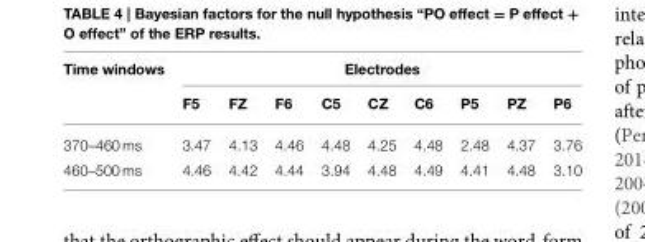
<table><thead><tr><td rowspan="2">Time windows</td><td colspan="9">Electrodes</td></tr><tr><td>F5</td><td>FZ</td><td>F6</td><td>C5</td><td>CZ</td><td>C6</td><td>P5</td><td>PZ</td><td>P6</td></tr></thead><tbody><tr><td>370–460 ms</td><td>3.47</td><td>4.13</td><td>4.46</td><td>4.48</td><td>4.25</td><td>4.48</td><td>2.48</td><td>4.37</td><td>3.76</td></tr><tr><td>460–500 ms</td><td>4.46</td><td>4.42</td><td>4.44</td><td>3.94</td><td>4.48</td><td>4.49</td><td>4.41</td><td>4.48</td><td>3.10</td></tr></tbody></table>